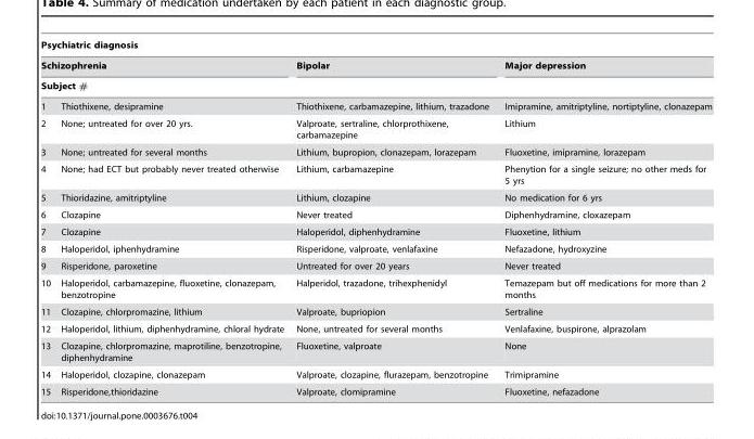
<table><thead><tr><td colspan="4">Psychiatric diagnosis</td></tr><tr><td colspan="2">Schizophrenia</td><td>Bipolar</td><td>Major depression</td></tr><tr><td colspan="4">Subject #</td></tr><tr><td>1</td><td>Thiothixene, desipramine</td><td>Thiothixene, carbamazepine, lithium, trazadone</td><td>Imipramine, amitriptyline, nortiptyline, clonazepam</td></tr></thead><tbody><tr><td>2</td><td>None; untreated for over 20 yrs.</td><td>Valproate, sertraline, chlorprothixene, carbamazepine</td><td>Lithium</td></tr><tr><td>3</td><td>None; untreated for several months</td><td>Lithium, bupropion, clonazepam, lorazepam</td><td>Fluoxetine, imipramine, lorazepam</td></tr><tr><td>4</td><td>None; had ECT but probably never treated otherwise</td><td>Lithium, carbamazepine</td><td>Phenytion for a single seizure; no other meds for 5 yrs</td></tr><tr><td>5</td><td>Thioridazine, amitriptyline</td><td>Lithium, clozapine</td><td>No medication for 6 yrs</td></tr><tr><td>6</td><td>Clozapine</td><td>Never treated</td><td>Diphenhydramine, cloxazepam</td></tr><tr><td>7</td><td>Clozapine</td><td>Haloperidol, diphenhydramine</td><td>Fluoxetine, lithium</td></tr><tr><td>8</td><td>Haloperidol, iphenhydramine</td><td>Risperidone, valproate, venlafaxine</td><td>Nefazadone, hydroxyzine</td></tr><tr><td>9</td><td>Risperidone, paroxetine</td><td>Untreated for over 20 years</td><td>Never treated</td></tr><tr><td>10</td><td>Haloperidol, carbamazepine, fluoxetine, clonazepam, benzotropine</td><td>Halperidol, trazadone, trihexphenidyl</td><td>Temazepam but off medications for more than 2 months</td></tr><tr><td>11</td><td>Clozapine, chlorpromazine, lithium</td><td>Valproate, bupriopion</td><td>Sertraline</td></tr><tr><td>12</td><td>Haloperidol, lithium, diphenhydramine, chloral hydrate</td><td>None, untreated for several months</td><td>Venlafaxine, buspirone, alprazolam</td></tr><tr><td>13</td><td>Clozapine, chlorpromazine, maprotiline, benzotropine, diphenhydramine</td><td>Fluoxetine, valproate</td><td>None</td></tr><tr><td>14</td><td>Haloperidol, clozapine, clonazepam</td><td>Valproate, clozapine, flurazepam, benzotropine</td><td>Trimipramine</td></tr><tr><td>15</td><td>Risperidone,thioridazine</td><td>Valproate, clomipramine</td><td>Fluoxetine, nefazadone</td></tr></tbody></table>